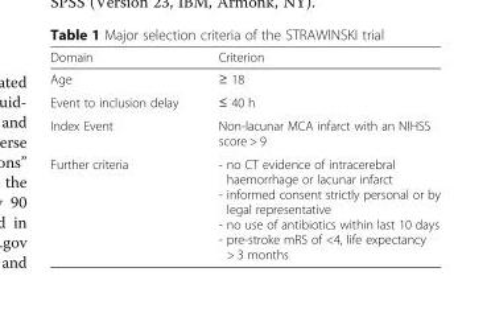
<table><thead><tr><td>Domain</td><td>Criterion</td></tr></thead><tbody><tr><td>Age</td><td>≥ 18</td></tr><tr><td>Event to inclusion delay</td><td>≤ 40 h</td></tr><tr><td>Index Event</td><td>Non-lacunar MCA infarct with an NIHSS score &gt; 9</td></tr><tr><td>Further criteria</td><td>- no CT evidence of intracerebral haemorrhage or lacunar infarct - informed consent strictly personal or by legal representative - no use of antibiotics within last 10 days - pre-stroke mRS of &lt;4, life expectancy &gt; 3 months</td></tr></tbody></table>